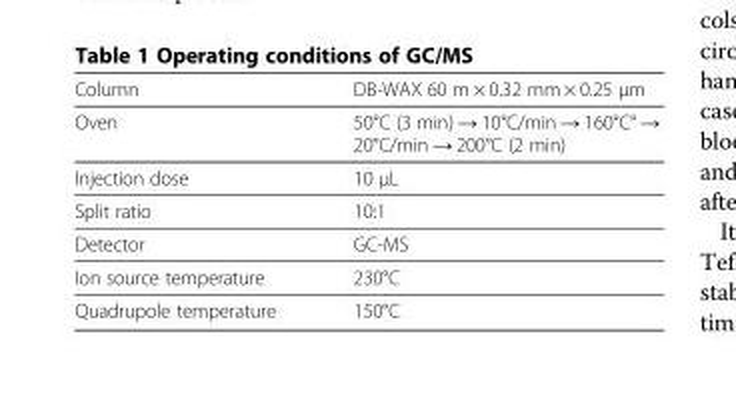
<table><tbody><tr><td>Column</td><td>DB-WAX 60 m × 0.32 mm × 0.25 μm</td></tr><tr><td>Oven</td><td>50°C (3 min) → 10°C/min → 160°C° → 20°C/min → 200°C (2 min)</td></tr><tr><td>Injection dose</td><td>10 μL</td></tr><tr><td>Split ratio</td><td>10:1</td></tr><tr><td>Detector</td><td>GC-MS</td></tr><tr><td>Ion source temperature</td><td>230°C</td></tr><tr><td>Quadrupole temperature</td><td>150°C</td></tr></tbody></table>